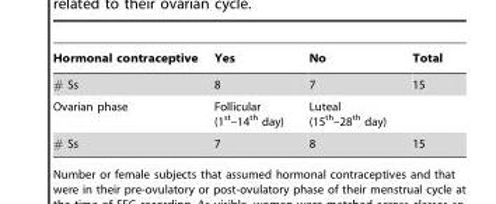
<table><thead><tr><td>Hormonal contraceptive</td><td>Yes</td><td>No</td><td>Total</td></tr></thead><tbody><tr><td># Ss</td><td>8</td><td>7</td><td>15</td></tr><tr><td>Ovarian phase</td><td>Follicular (1<sup>st</sup>–14<sup>th</sup> day)</td><td>Luteal (15<sup>th</sup>–28<sup>th</sup> day)</td><td></td></tr><tr><td># Ss</td><td>7</td><td>8</td><td>15</td></tr></tbody></table>